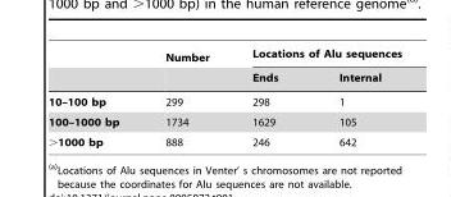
<table><thead><tr><td rowspan="2"></td><td rowspan="2">Number</td><td colspan="2">Locations of Alu sequences</td></tr><tr><td>Ends</td><td>Internal</td></tr></thead><tbody><tr><td>10–100 bp</td><td>299</td><td>298</td><td>1</td></tr><tr><td>100–1000 bp</td><td>1734</td><td>1629</td><td>105</td></tr><tr><td>&gt;1000 bp</td><td>888</td><td>246</td><td>642</td></tr></tbody></table>